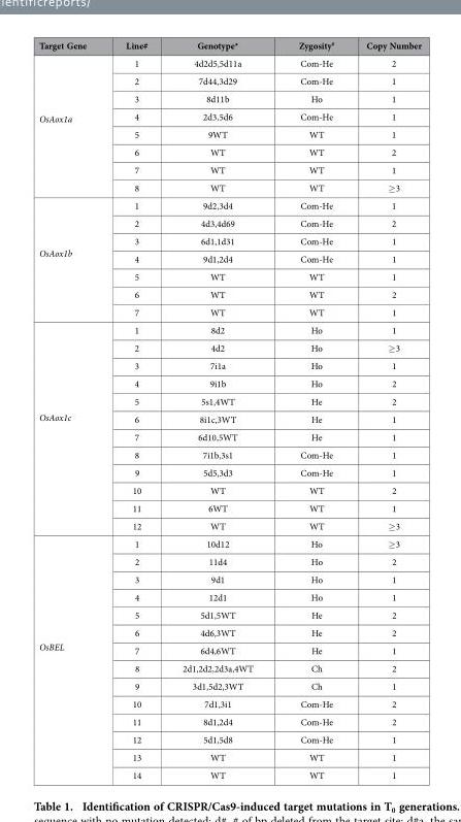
<table><thead><tr><td>Target Gene</td><td>Line#</td><td>Genotype*</td><td>Zygosity#</td><td>Copy Number</td></tr></thead><tbody><tr><td rowspan="8">OsAox1a</td><td>1</td><td>4d2d5,5d11a</td><td>Com-He</td><td>2</td></tr><tr><td>2</td><td>7d44,3d29</td><td>Com-He</td><td>1</td></tr><tr><td>3</td><td>8d11b</td><td>Ho</td><td>1</td></tr><tr><td>4</td><td>2d3,5d6</td><td>Com-He</td><td>1</td></tr><tr><td>5</td><td>9WT</td><td>WT</td><td>1</td></tr><tr><td>6</td><td>WT</td><td>WT</td><td>2</td></tr><tr><td>7</td><td>WT</td><td>WT</td><td>1</td></tr><tr><td>8</td><td>WT</td><td>WT</td><td>≥ 3</td></tr><tr><td rowspan="7">OsAox1b</td><td>1</td><td>9d2,3d4</td><td>Com-He</td><td>1</td></tr><tr><td>2</td><td>4d3,4d69</td><td>Com-He</td><td>2</td></tr><tr><td>3</td><td>6d1,1d31</td><td>Com-He</td><td>1</td></tr><tr><td>4</td><td>9d1,2d4</td><td>Com-He</td><td>1</td></tr><tr><td>5</td><td>WT</td><td>WT</td><td>1</td></tr><tr><td>6</td><td>WT</td><td>WT</td><td>2</td></tr><tr><td>7</td><td>WT</td><td>WT</td><td>1</td></tr><tr><td rowspan="12">OsAox1c</td><td>1</td><td>8d2</td><td>Ho</td><td>1</td></tr><tr><td>2</td><td>4d2</td><td>Ho</td><td>≥ 3</td></tr><tr><td>3</td><td>7i1a</td><td>Ho</td><td>1</td></tr><tr><td>4</td><td>9i1b</td><td>Ho</td><td>2</td></tr><tr><td>5</td><td>5s1,4WT</td><td>He</td><td>2</td></tr><tr><td>6</td><td>8i1c,3WT</td><td>He</td><td>1</td></tr><tr><td>7</td><td>6d10,5WT</td><td>He</td><td>1</td></tr><tr><td>8</td><td>7i1b,3s1</td><td>Com-He</td><td>1</td></tr><tr><td>9</td><td>5d5,3d3</td><td>Com-He</td><td>1</td></tr><tr><td>10</td><td>WT</td><td>WT</td><td>2</td></tr><tr><td>11</td><td>6WT</td><td>WT</td><td>1</td></tr><tr><td>12</td><td>WT</td><td>WT</td><td>≥ 3</td></tr><tr><td rowspan="14">OsBEL</td><td>1</td><td>10d12</td><td>Ho</td><td>≥ 3</td></tr><tr><td>2</td><td>11d4</td><td>Ho</td><td>2</td></tr><tr><td>3</td><td>9d1</td><td>Ho</td><td>1</td></tr><tr><td>4</td><td>12d1</td><td>Ho</td><td>1</td></tr><tr><td>5</td><td>5d1,5WT</td><td>He</td><td>2</td></tr><tr><td>6</td><td>4d6,3WT</td><td>He</td><td>2</td></tr><tr><td>7</td><td>6d4,6WT</td><td>He</td><td>1</td></tr><tr><td>8</td><td>2d1,2d2,2d3a,4WT</td><td>Ch</td><td>2</td></tr><tr><td>9</td><td>3d1,5d2,3WT</td><td>Ch</td><td>1</td></tr><tr><td>10</td><td>7d1,3i1</td><td>Com-He</td><td>2</td></tr><tr><td>11</td><td>8d1,2d4</td><td>Com-He</td><td>2</td></tr><tr><td>12</td><td>5d1,5d8</td><td>Com-He</td><td>1</td></tr><tr><td>13</td><td>WT</td><td>WT</td><td>1</td></tr><tr><td>14</td><td>WT</td><td>WT</td><td>1</td></tr></tbody></table>